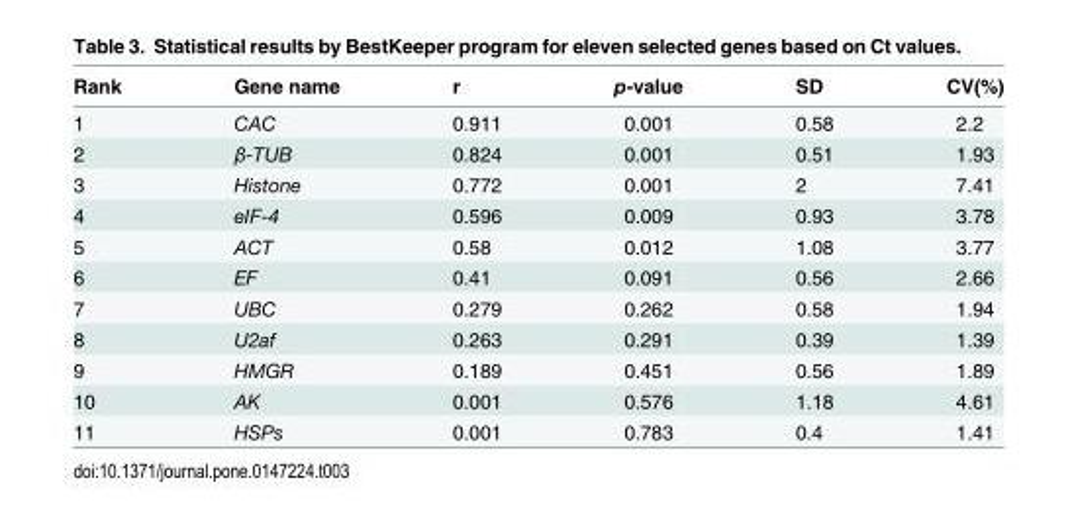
<table><thead><tr><td>Rank</td><td>Gene name</td><td>r</td><td>p-value</td><td>SD</td><td>CV(%)</td></tr></thead><tbody><tr><td>1</td><td>CAC</td><td>0.911</td><td>0.001</td><td>0.58</td><td>2.2</td></tr><tr><td>2</td><td>β-TUB</td><td>0.824</td><td>0.001</td><td>0.51</td><td>1.93</td></tr><tr><td>3</td><td>Histone</td><td>0.772</td><td>0.001</td><td>2</td><td>7.41</td></tr><tr><td>4</td><td>eIF-4</td><td>0.596</td><td>0.009</td><td>0.93</td><td>3.78</td></tr><tr><td>5</td><td>ACT</td><td>0.58</td><td>0.012</td><td>1.08</td><td>3.77</td></tr><tr><td>6</td><td>EF</td><td>0.41</td><td>0.091</td><td>0.56</td><td>2.66</td></tr><tr><td>7</td><td>UBC</td><td>0.279</td><td>0.262</td><td>0.58</td><td>1.94</td></tr><tr><td>8</td><td>U2af</td><td>0.263</td><td>0.291</td><td>0.39</td><td>1.39</td></tr><tr><td>9</td><td>HMGR</td><td>0.189</td><td>0.451</td><td>0.56</td><td>1.89</td></tr><tr><td>10</td><td>AK</td><td>0.001</td><td>0.576</td><td>1.18</td><td>4.61</td></tr><tr><td>11</td><td>HSPs</td><td>0.001</td><td>0.783</td><td>0.4</td><td>1.41</td></tr></tbody></table>